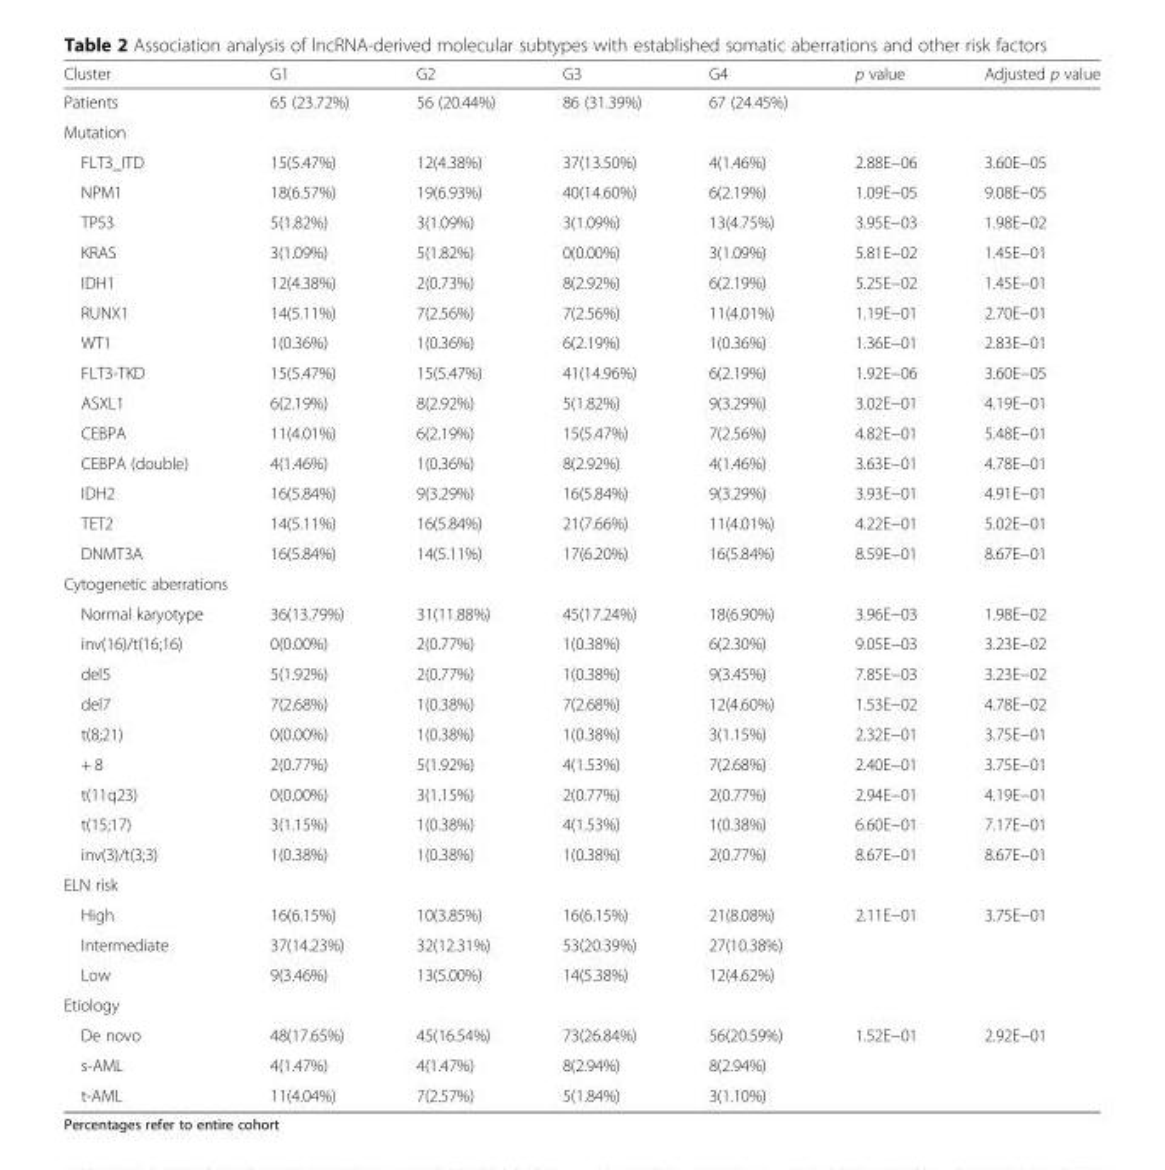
<table><thead><tr><td>Cluster</td><td>G1</td><td>G2</td><td>G3</td><td>G4</td><td>p value</td><td>Adjusted p value</td></tr></thead><tbody><tr><td>Patients</td><td>65 (23.72%)</td><td>56 (20.44%)</td><td>86 (31.39%)</td><td>67 (24.45%)</td><td></td><td></td></tr><tr><td colspan="7">Mutation</td></tr><tr><td>FLT3_ITD</td><td>15(5.47%)</td><td>12(4.38%)</td><td>37(13.50%)</td><td>4(1.46%)</td><td>2.88E−06</td><td>3.60E−05</td></tr><tr><td>NPM1</td><td>18(6.57%)</td><td>19(6.93%)</td><td>40(14.60%)</td><td>6(2.19%)</td><td>1.09E−05</td><td>9.08E−05</td></tr><tr><td>TP53</td><td>5(1.82%)</td><td>3(1.09%)</td><td>3(1.09%)</td><td>13(4.75%)</td><td>3.95E−03</td><td>1.98E−02</td></tr><tr><td>KRAS</td><td>3(1.09%)</td><td>5(1.82%)</td><td>0(0.00%)</td><td>3(1.09%)</td><td>5.81E−02</td><td>1.45E−01</td></tr><tr><td>IDH1</td><td>12(4.38%)</td><td>2(0.73%)</td><td>8(2.92%)</td><td>6(2.19%)</td><td>5.25E−02</td><td>1.45E−01</td></tr><tr><td>RUNX1</td><td>14(5.11%)</td><td>7(2.56%)</td><td>7(2.56%)</td><td>11(4.01%)</td><td>1.19E−01</td><td>2.70E−01</td></tr><tr><td>WT1</td><td>1(0.36%)</td><td>1(0.36%)</td><td>6(2.19%)</td><td>1(0.36%)</td><td>1.36E−01</td><td>2.83E−01</td></tr><tr><td>FLT3-TKD</td><td>15(5.47%)</td><td>15(5.47%)</td><td>41(14.96%)</td><td>6(2.19%)</td><td>1.92E−06</td><td>3.60E−05</td></tr><tr><td>ASXL1</td><td>6(2.19%)</td><td>8(2.92%)</td><td>5(1.82%)</td><td>9(3.29%)</td><td>3.02E−01</td><td>4.19E−01</td></tr><tr><td>CEBPA</td><td>11(4.01%)</td><td>6(2.19%)</td><td>15(5.47%)</td><td>7(2.56%)</td><td>4.82E−01</td><td>5.48E−01</td></tr><tr><td>CEBPA (double)</td><td>4(1.46%)</td><td>1(0.36%)</td><td>8(2.92%)</td><td>4(1.46%)</td><td>3.63E−01</td><td>4.78E−01</td></tr><tr><td>IDH2</td><td>16(5.84%)</td><td>9(3.29%)</td><td>16(5.84%)</td><td>9(3.29%)</td><td>3.93E−01</td><td>4.91E−01</td></tr><tr><td>TET2</td><td>14(5.11%)</td><td>16(5.84%)</td><td>21(7.66%)</td><td>11(4.01%)</td><td>4.22E−01</td><td>5.02E−01</td></tr><tr><td>DNMT3A</td><td>16(5.84%)</td><td>14(5.11%)</td><td>17(6.20%)</td><td>16(5.84%)</td><td>8.59E−01</td><td>8.67E−01</td></tr><tr><td colspan="7">Cytogenetic aberrations</td></tr><tr><td>Normal karyotype</td><td>36(13.79%)</td><td>31(11.88%)</td><td>45(17.24%)</td><td>18(6.90%)</td><td>3.96E−03</td><td>1.98E−02</td></tr><tr><td>inv(16)/t(16;16)</td><td>0(0.00%)</td><td>2(0.77%)</td><td>1(0.38%)</td><td>6(2.30%)</td><td>9.05E−03</td><td>3.23E−02</td></tr><tr><td>del5</td><td>5(1.92%)</td><td>2(0.77%)</td><td>1(0.38%)</td><td>9(3.45%)</td><td>7.85E−03</td><td>3.23E−02</td></tr><tr><td>del7</td><td>7(2.68%)</td><td>1(0.38%)</td><td>7(2.68%)</td><td>12(4.60%)</td><td>1.53E−02</td><td>4.78E−02</td></tr><tr><td>t(8;21)</td><td>0(0.00%)</td><td>1(0.38%)</td><td>1(0.38%)</td><td>3(1.15%)</td><td>2.32E−01</td><td>3.75E−01</td></tr><tr><td>+ 8</td><td>2(0.77%)</td><td>5(1.92%)</td><td>4(1.53%)</td><td>7(2.68%)</td><td>2.40E−01</td><td>3.75E−01</td></tr><tr><td>t(11q23)</td><td>0(0.00%)</td><td>3(1.15%)</td><td>2(0.77%)</td><td>2(0.77%)</td><td>2.94E−01</td><td>4.19E−01</td></tr><tr><td>t(15;17)</td><td>3(1.15%)</td><td>1(0.38%)</td><td>4(1.53%)</td><td>1(0.38%)</td><td>6.60E−01</td><td>7.17E−01</td></tr><tr><td>inv(3)/t(3;3)</td><td>1(0.38%)</td><td>1(0.38%)</td><td>1(0.38%)</td><td>2(0.77%)</td><td>8.67E−01</td><td>8.67E−01</td></tr><tr><td colspan="7">ELN risk</td></tr><tr><td>High</td><td>16(6.15%)</td><td>10(3.85%)</td><td>16(6.15%)</td><td>21(8.08%)</td><td rowspan="3">2.11E−01</td><td rowspan="3">3.75E−01</td></tr><tr><td>Intermediate</td><td>37(14.23%)</td><td>32(12.31%)</td><td>53(20.39%)</td><td>27(10.38%)</td></tr><tr><td>Low</td><td>9(3.46%)</td><td>13(5.00%)</td><td>14(5.38%)</td><td>12(4.62%)</td></tr><tr><td colspan="7">Etiology</td></tr><tr><td>De novo</td><td>48(17.65%)</td><td>45(16.54%)</td><td>73(26.84%)</td><td>56(20.59%)</td><td rowspan="3">1.52E−01</td><td rowspan="3">2.92E−01</td></tr><tr><td>s-AML</td><td>4(1.47%)</td><td>4(1.47%)</td><td>8(2.94%)</td><td>8(2.94%)</td></tr><tr><td>t-AML</td><td>11(4.04%)</td><td>7(2.57%)</td><td>5(1.84%)</td><td>3(1.10%)</td></tr></tbody></table>